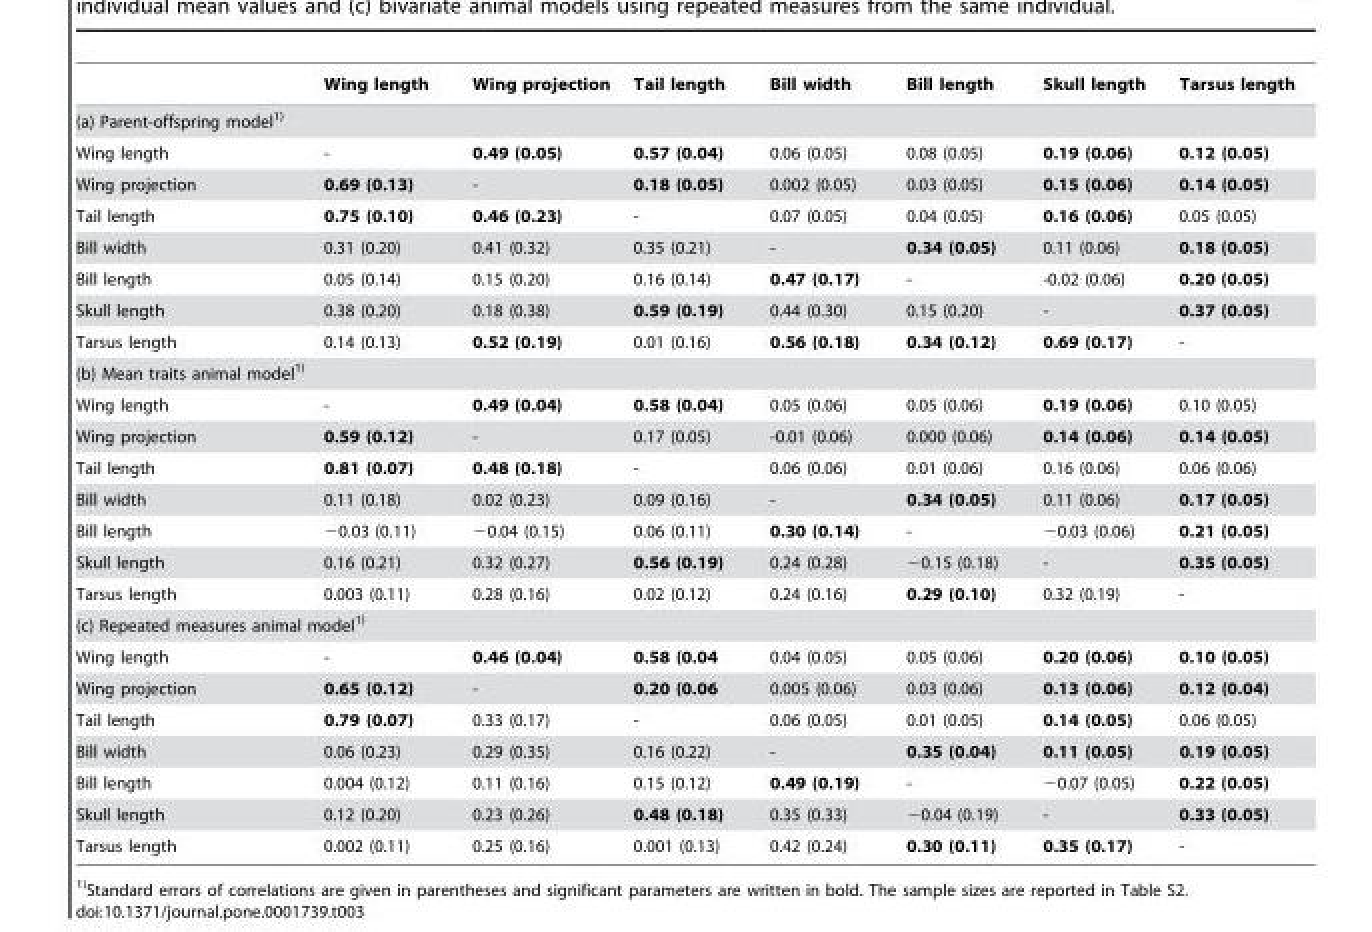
<table><thead><tr><td></td><td>Wing length</td><td>Wing projection</td><td>Tail length</td><td>Bill width</td><td>Bill length</td><td>Skull length</td><td>Tarsus length</td></tr></thead><tbody><tr><td colspan="8">(a) Parent-offspring model1)</td></tr><tr><td>Wing length</td><td>-</td><td>0.49 (0.05)</td><td>0.57 (0.04)</td><td>0.06 (0.05)</td><td>0.08 (0.05)</td><td>0.19 (0.06)</td><td>0.12 (0.05)</td></tr><tr><td>Wing projection</td><td>0.69 (0.13)</td><td>-</td><td>0.18 (0.05)</td><td>0.002 (0.05)</td><td>0.03 (0.05)</td><td>0.15 (0.06)</td><td>0.14 (0.05)</td></tr><tr><td>Tail length</td><td>0.75 (0.10)</td><td>0.46 (0.23)</td><td>-</td><td>0.07 (0.05)</td><td>0.04 (0.05)</td><td>0.16 (0.06)</td><td>0.05 (0.05)</td></tr><tr><td>Bill width</td><td>0.31 (0.20)</td><td>0.41 (0.32)</td><td>0.35 (0.21)</td><td>-</td><td>0.34 (0.05)</td><td>0.11 (0.06)</td><td>0.18 (0.05)</td></tr><tr><td>Bill length</td><td>0.05 (0.14)</td><td>0.15 (0.20)</td><td>0.16 (0.14)</td><td>0.47 (0.17)</td><td>-</td><td>-0.02 (0.06)</td><td>0.20 (0.05)</td></tr><tr><td>Skull length</td><td>0.38 (0.20)</td><td>0.18 (0.38)</td><td>0.59 (0.19)</td><td>0.44 (0.30)</td><td>0.15 (0.20)</td><td>-</td><td>0.37 (0.05)</td></tr><tr><td>Tarsus length</td><td>0.14 (0.13)</td><td>0.52 (0.19)</td><td>0.01 (0.16)</td><td>0.56 (0.18)</td><td>0.34 (0.12)</td><td>0.69 (0.17)</td><td>-</td></tr><tr><td colspan="8">(b) Mean traits animal model1)</td></tr><tr><td>Wing length</td><td>-</td><td>0.49 (0.04)</td><td>0.58 (0.04)</td><td>0.05 (0.06)</td><td>0.05 (0.06)</td><td>0.19 (0.06)</td><td>0.10 (0.05)</td></tr><tr><td>Wing projection</td><td>0.59 (0.12)</td><td>-</td><td>0.17 (0.05)</td><td>-0.01 (0.06)</td><td>0.000 (0.06)</td><td>0.14 (0.06)</td><td>0.14 (0.05)</td></tr><tr><td>Tail length</td><td>0.81 (0.07)</td><td>0.48 (0.18)</td><td>-</td><td>0.06 (0.06)</td><td>0.01 (0.06)</td><td>0.16 (0.06)</td><td>0.06 (0.06)</td></tr><tr><td>Bill width</td><td>0.11 (0.18)</td><td>0.02 (0.23)</td><td>0.09 (0.16)</td><td>-</td><td>0.34 (0.05)</td><td>0.11 (0.06)</td><td>0.17 (0.05)</td></tr><tr><td>Bill length</td><td>−0.03 (0.11)</td><td>−0.04 (0.15)</td><td>0.06 (0.11)</td><td>0.30 (0.14)</td><td>-</td><td>−0.03 (0.06)</td><td>0.21 (0.05)</td></tr><tr><td>Skull length</td><td>0.16 (0.21)</td><td>0.32 (0.27)</td><td>0.56 (0.19)</td><td>0.24 (0.28)</td><td>−0.15 (0.18)</td><td>-</td><td>0.35 (0.05)</td></tr><tr><td>Tarsus length</td><td>0.003 (0.11)</td><td>0.28 (0.16)</td><td>0.02 (0.12)</td><td>0.24 (0.16)</td><td>0.29 (0.10)</td><td>0.32 (0.19)</td><td>-</td></tr><tr><td colspan="8">(c) Repeated measures animal model1)</td></tr><tr><td>Wing length</td><td>-</td><td>0.46 (0.04)</td><td>0.58 (0.04</td><td>0.04 (0.05)</td><td>0.05 (0.06)</td><td>0.20 (0.06)</td><td>0.10 (0.05)</td></tr><tr><td>Wing projection</td><td>0.65 (0.12)</td><td>-</td><td>0.20 (0.06</td><td>0.005 (0.06)</td><td>0.03 (0.06)</td><td>0.13 (0.06)</td><td>0.12 (0.04)</td></tr><tr><td>Tail length</td><td>0.79 (0.07)</td><td>0.33 (0.17)</td><td>-</td><td>0.06 (0.05)</td><td>0.01 (0.05)</td><td>0.14 (0.05)</td><td>0.06 (0.05)</td></tr><tr><td>Bill width</td><td>0.06 (0.23)</td><td>0.29 (0.35)</td><td>0.16 (0.22)</td><td>-</td><td>0.35 (0.04)</td><td>0.11 (0.05)</td><td>0.19 (0.05)</td></tr><tr><td>Bill length</td><td>0.004 (0.12)</td><td>0.11 (0.16)</td><td>0.15 (0.12)</td><td>0.49 (0.19)</td><td>-</td><td>−0.07 (0.05)</td><td>0.22 (0.05)</td></tr><tr><td>Skull length</td><td>0.12 (0.20)</td><td>0.23 (0.26)</td><td>0.48 (0.18)</td><td>0.35 (0.33)</td><td>−0.04 (0.19)</td><td>-</td><td>0.33 (0.05)</td></tr><tr><td>Tarsus length</td><td>0.002 (0.11)</td><td>0.25 (0.16)</td><td>0.001 (0.13)</td><td>0.42 (0.24)</td><td>0.30 (0.11)</td><td>0.35 (0.17)</td><td>-</td></tr></tbody></table>